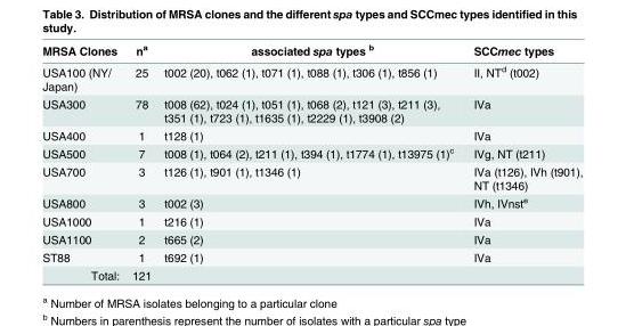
<table><thead><tr><td>MRSA Clones</td><td>n<sup>a</sup></td><td>associated spa types <sup>b</sup></td><td>SCCmec types</td></tr></thead><tbody><tr><td>USA100 (NY/ Japan)</td><td>25</td><td>t002 (20), t062 (1), t071 (1), t088 (1), t306 (1), t856 (1)</td><td>II, NT<sup>d</sup> (t002)</td></tr><tr><td>USA300</td><td>78</td><td>t008 (62), t024 (1), t051 (1), t068 (2), t121 (3), t211 (3), t351 (1), t723 (1), t1635 (1), t2229 (1), t3908 (2)</td><td>IVa</td></tr><tr><td>USA400</td><td>1</td><td>t128 (1)</td><td>IVa</td></tr><tr><td>USA500</td><td>7</td><td>t008 (1), t064 (2), t211 (1), t394 (1), t1774 (1), t13975 (1)<sup>c</sup></td><td>IVg, NT (t211)</td></tr><tr><td>USA700</td><td>3</td><td>t126 (1), t901 (1), t1346 (1)</td><td>IVa (t126), IVh (t901), NT (t1346)</td></tr><tr><td>USA800</td><td>3</td><td>t002 (3)</td><td>IVh, IVnst<sup>e</sup></td></tr><tr><td>USA1000</td><td>1</td><td>t216 (1)</td><td>IVa</td></tr><tr><td>USA1100</td><td>2</td><td>t665 (2)</td><td>IVa</td></tr><tr><td>ST88</td><td>1</td><td>t692 (1)</td><td>IVa</td></tr><tr><td>Total:</td><td>121</td><td></td><td></td></tr></tbody></table>